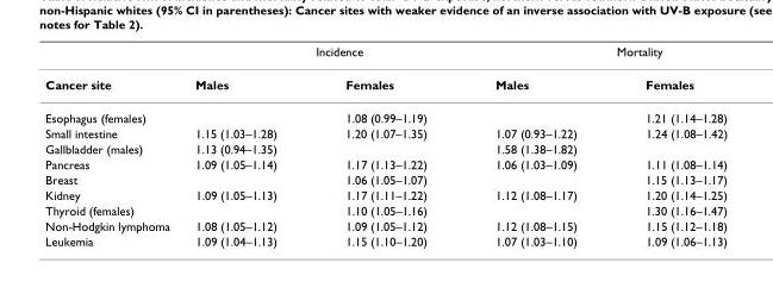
<table><thead><tr><td rowspan="2">Cancer site</td><td colspan="2">Incidence</td><td colspan="2">Mortality</td></tr><tr><td>Males</td><td>Females</td><td>Males</td><td>Females</td></tr></thead><tbody><tr><td>Esophagus (females)</td><td></td><td>1.08 (0.99–1.19)</td><td></td><td>1.21 (1.14–1.28)</td></tr><tr><td>Small intestine</td><td>1.15 (1.03–1.28)</td><td>1.20 (1.07–1.35)</td><td>1.07 (0.93–1.22)</td><td>1.24 (1.08–1.42)</td></tr><tr><td>Gallbladder (males)</td><td>1.13 (0.94–1.35)</td><td></td><td>1.58 (1.38–1.82)</td><td></td></tr><tr><td>Pancreas</td><td>1.09 (1.05–1.14)</td><td>1.17 (1.13–1.22)</td><td>1.06 (1.03–1.09)</td><td>1.11 (1.08–1.14)</td></tr><tr><td>Breast</td><td></td><td>1.06 (1.05–1.07)</td><td></td><td>1.15 (1.13–1.17)</td></tr><tr><td>Kidney</td><td>1.09 (1.05–1.13)</td><td>1.17 (1.11–1.22)</td><td>1.12 (1.08–1.17)</td><td>1.20 (1.14–1.25)</td></tr><tr><td>Thyroid (females)</td><td></td><td>1.10 (1.05–1.16)</td><td></td><td>1.30 (1.16–1.47)</td></tr><tr><td>Non-Hodgkin lymphoma</td><td>1.08 (1.05–1.12)</td><td>1.09 (1.05–1.12)</td><td>1.12 (1.08–1.15)</td><td>1.15 (1.12–1.18)</td></tr><tr><td>Leukemia</td><td>1.09 (1.04–1.13)</td><td>1.15 (1.10–1.20)</td><td>1.07 (1.03–1.10)</td><td>1.09 (1.06–1.13)</td></tr></tbody></table>